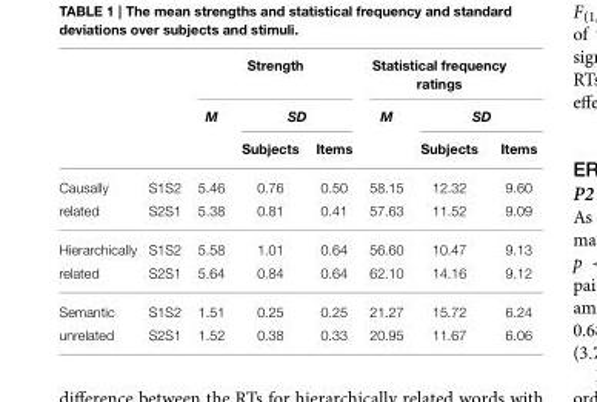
<table><thead><tr><td rowspan="3"></td><td rowspan="3"></td><td colspan="3">Strength</td><td colspan="3">Statistical frequency ratings</td></tr><tr><td rowspan="2">M</td><td colspan="2">SD</td><td rowspan="2">M</td><td colspan="2">SD</td></tr><tr><td>Subjects</td><td>Items</td><td>Subjects</td><td>Items</td></tr></thead><tbody><tr><td>Causally</td><td>S1S2</td><td>5.46</td><td>0.76</td><td>0.50</td><td>58.15</td><td>12.32</td><td>9.60</td></tr><tr><td>related</td><td>S2S1</td><td>5.38</td><td>0.81</td><td>0.41</td><td>57.63</td><td>11.52</td><td>9.09</td></tr><tr><td>Hierarchically</td><td>S1S2</td><td>5.58</td><td>1.01</td><td>0.64</td><td>56.60</td><td>10.47</td><td>9.13</td></tr><tr><td>related</td><td>S2S1</td><td>5.64</td><td>0.84</td><td>0.64</td><td>62.10</td><td>14.16</td><td>9.12</td></tr><tr><td>Semantic</td><td>S1S2</td><td>1.51</td><td>0.25</td><td>0.25</td><td>21.27</td><td>15.72</td><td>6.24</td></tr><tr><td>unrelated</td><td>S2S1</td><td>1.52</td><td>0.38</td><td>0.33</td><td>20.95</td><td>11.67</td><td>6.06</td></tr></tbody></table>